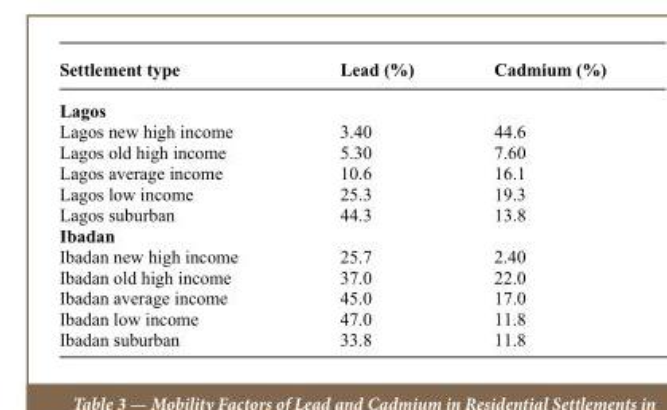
<table><thead><tr><td>Settlement type</td><td>Lead (%)</td><td>Cadmium (%)</td></tr></thead><tbody><tr><td colspan="3">Lagos</td></tr><tr><td>Lagos new high income</td><td>3.40</td><td>44.6</td></tr><tr><td>Lagos old high income</td><td>5.30</td><td>7.60</td></tr><tr><td>Lagos average income</td><td>10.6</td><td>16.1</td></tr><tr><td>Lagos low income</td><td>25.3</td><td>19.3</td></tr><tr><td>Lagos suburban</td><td>44.3</td><td>13.8</td></tr><tr><td colspan="3">Ibadan</td></tr><tr><td>Ibadan new high income</td><td>25.7</td><td>2.40</td></tr><tr><td>Ibadan old high income</td><td>37.0</td><td>22.0</td></tr><tr><td>Ibadan average income</td><td>45.0</td><td>17.0</td></tr><tr><td>Ibadan low income</td><td>47.0</td><td>11.8</td></tr><tr><td>Ibadan suburban</td><td>33.8</td><td>11.8</td></tr></tbody></table>